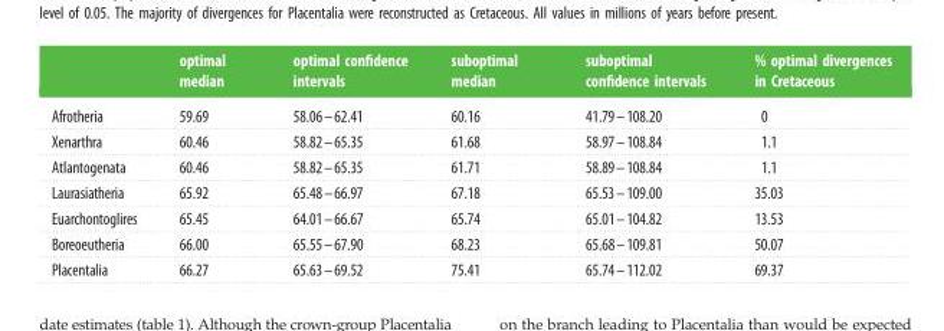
<table><thead><tr><td></td><td>optimal median</td><td>optimal confidence intervals</td><td>suboptimal median</td><td>suboptimal confidence intervals</td><td>% optimal divergences in Cretaceous</td></tr></thead><tbody><tr><td>Afrotheria</td><td>59.69</td><td>58.06–62.41</td><td>60.16</td><td>41.79–108.20</td><td>0</td></tr><tr><td>Xenarthra</td><td>60.46</td><td>58.82–65.35</td><td>61.68</td><td>58.97–108.84</td><td>1.1</td></tr><tr><td>Atlantogenata</td><td>60.46</td><td>58.82–65.35</td><td>61.71</td><td>58.89–108.84</td><td>1.1</td></tr><tr><td>Laurasiatheria</td><td>65.92</td><td>65.48–66.97</td><td>67.18</td><td>65.53–109.00</td><td>35.03</td></tr><tr><td>Euarchontoglires</td><td>65.45</td><td>64.01–66.67</td><td>65.74</td><td>65.01–104.82</td><td>13.53</td></tr><tr><td>Boreoeutheria</td><td>66.00</td><td>65.55–67.90</td><td>68.23</td><td>65.68–109.81</td><td>50.07</td></tr><tr><td>Placentalia</td><td>66.27</td><td>65.63–69.52</td><td>75.41</td><td>65.74–112.02</td><td>69.37</td></tr></tbody></table>